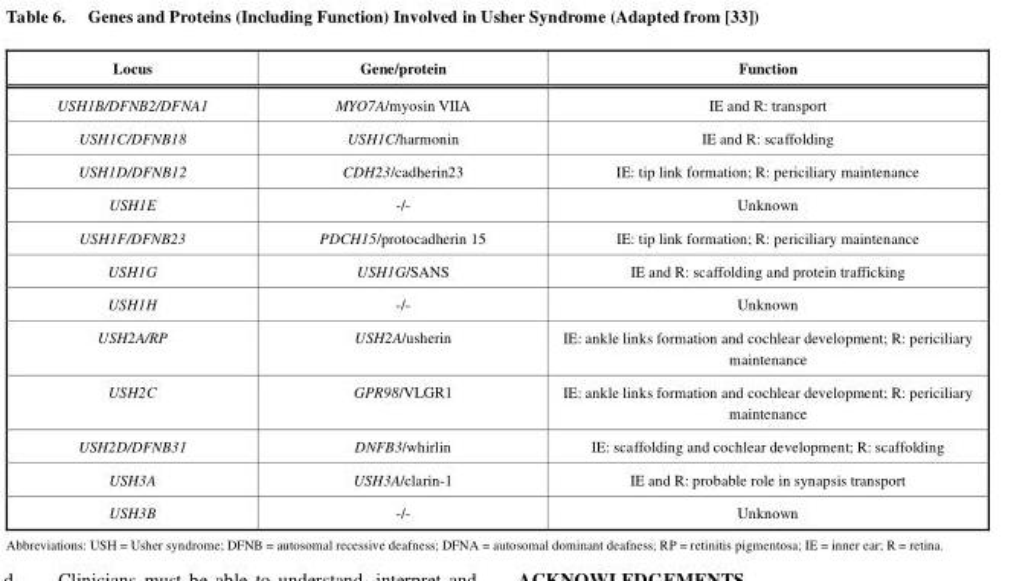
<table><thead><tr><td>Locus</td><td>Gene/protein</td><td>Function</td></tr></thead><tbody><tr><td>USH1B/DFNB2/DFNA1</td><td>MYO7A/myosin VIIA</td><td>IE and R: transport</td></tr><tr><td>USH1C/DFNB18</td><td>USH1C/harmonin</td><td>IE and R: scaffolding</td></tr><tr><td>USH1D/DFNB12</td><td>CDH23/cadherin23</td><td>IE: tip link formation; R: periciliary maintenance</td></tr><tr><td>USH1E</td><td>-/-</td><td>Unknown</td></tr><tr><td>USH1F/DFNB23</td><td>PDCH15/protocadherin 15</td><td>IE: tip link formation; R: periciliary maintenance</td></tr><tr><td>USH1G</td><td>USH1G/SANS</td><td>IE and R: scaffolding and protein trafficking</td></tr><tr><td>USH1H</td><td>-/-</td><td>Unknown</td></tr><tr><td>USH2A/RP</td><td>USH2A/usherin</td><td>IE: ankle links formation and cochlear development; R: periciliary maintenance</td></tr><tr><td>USH2C</td><td>GPR98/VLGR1</td><td>IE: ankle links formation and cochlear development; R: periciliary maintenance</td></tr><tr><td>USH2D/DFNB31</td><td>DNFB3/whirlin</td><td>IE: scaffolding and cochlear development; R: scaffolding</td></tr><tr><td>USH3A</td><td>USH3A/clarin-1</td><td>IE and R: probable role in synapsis transport</td></tr><tr><td>USH3B</td><td>-/-</td><td>Unknown</td></tr></tbody></table>